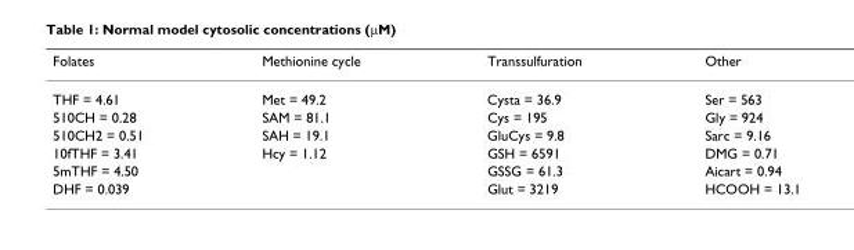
<table><thead><tr><td>Folates</td><td>Methionine cycle</td><td>Transsulfuration</td><td>Other</td></tr></thead><tbody><tr><td>THF = 4.61</td><td>Met = 49.2</td><td>Cysta = 36.9</td><td>Ser = 563</td></tr><tr><td>510CH = 0.28</td><td>SAM = 81.1</td><td>Cys = 195</td><td>Gly = 924</td></tr><tr><td>510CH2 = 0.51</td><td>SAH = 19.1</td><td>GluCys = 9.8</td><td>Sarc = 9.16</td></tr><tr><td>10fTHF = 3.41</td><td>Hcy = 1.12</td><td>GSH = 6591</td><td>DMG = 0.71</td></tr><tr><td>5mTHF = 4.50</td><td></td><td>GSSG = 61.3</td><td>Aicart = 0.94</td></tr><tr><td>DHF = 0.039</td><td></td><td>Glut = 3219</td><td>HCOOH = 13.1</td></tr></tbody></table>